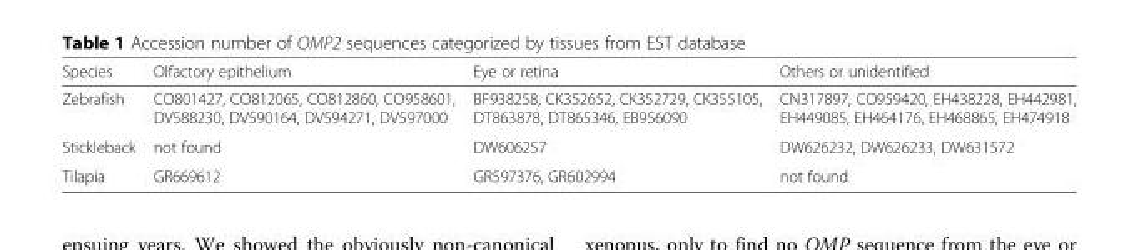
<table><thead><tr><td>Species</td><td>Olfactory epithelium</td><td>Eye or retina</td><td>Others or unidentified</td></tr></thead><tbody><tr><td>Zebrafish</td><td>CO801427, CO812065, CO812860, CO958601, DV588230, DV590164, DV594271, DV597000</td><td>BF938258, CK352652, CK352729, CK355105, DT863878, DT865346, EB956090</td><td>CN317897, CO959420, EH438228, EH442981, EH449085, EH464176, EH468865, EH474918</td></tr><tr><td>Stickleback</td><td>not found</td><td>DW606257</td><td>DW626232, DW626233, DW631572</td></tr><tr><td>Tilapia</td><td>GR669612</td><td>GR597376, GR602994</td><td>not found</td></tr></tbody></table>